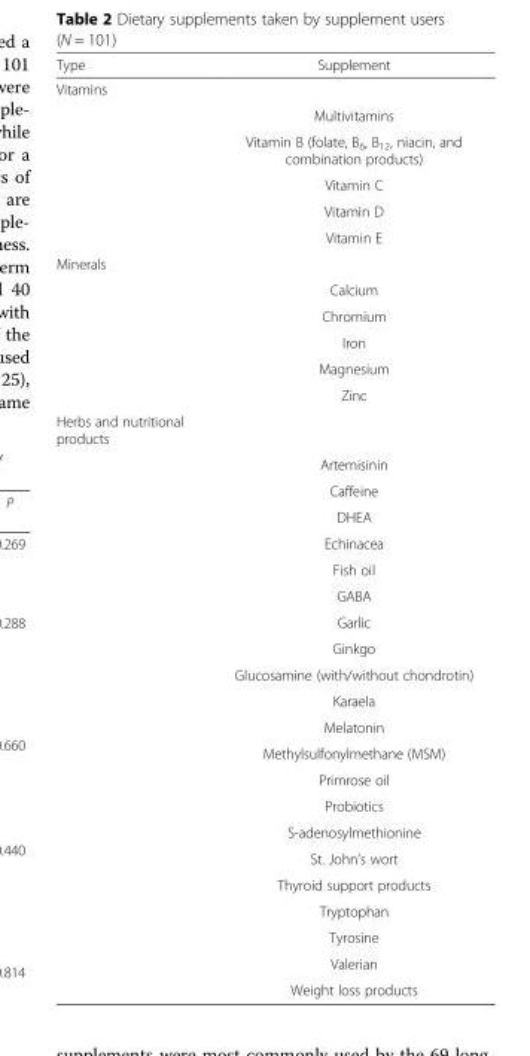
<table><thead><tr><td>Type</td><td>Supplement</td></tr></thead><tbody><tr><td colspan="2">Vitamins</td></tr><tr><td></td><td>Multivitamins</td></tr><tr><td></td><td>Vitamin B (folate, B<sub>6</sub>, B<sub>12</sub>, niacin, and combination products)</td></tr><tr><td></td><td>Vitamin C</td></tr><tr><td></td><td>Vitamin D</td></tr><tr><td></td><td>Vitamin E</td></tr><tr><td colspan="2">Minerals</td></tr><tr><td></td><td>Calcium</td></tr><tr><td></td><td>Chromium</td></tr><tr><td></td><td>Iron</td></tr><tr><td></td><td>Magnesium</td></tr><tr><td></td><td>Zinc</td></tr><tr><td colspan="2">Herbs and nutritional products</td></tr><tr><td></td><td>Artemisinin</td></tr><tr><td></td><td>Caffeine</td></tr><tr><td></td><td>DHEA</td></tr><tr><td></td><td>Echinacea</td></tr><tr><td></td><td>Fish oil</td></tr><tr><td></td><td>GABA</td></tr><tr><td></td><td>Garlic</td></tr><tr><td></td><td>Ginkgo</td></tr><tr><td></td><td>Glucosamine (with/without chondrotin)</td></tr><tr><td></td><td>Karaela</td></tr><tr><td></td><td>Melatonin</td></tr><tr><td></td><td>Methylsulfonylmethane (MSM)</td></tr><tr><td></td><td>Primrose oil</td></tr><tr><td></td><td>Probiotics</td></tr><tr><td></td><td>S-adenosylmethionine</td></tr><tr><td></td><td>St. John’s wort</td></tr><tr><td></td><td>Thyroid support products</td></tr><tr><td></td><td>Tryptophan</td></tr><tr><td></td><td>Tyrosine</td></tr><tr><td></td><td>Valerian</td></tr><tr><td></td><td>Weight loss products</td></tr></tbody></table>